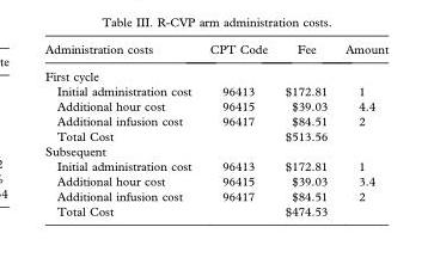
<table><thead><tr><td>Administration costs</td><td>CPT Code</td><td>Fee</td><td>Amount</td></tr></thead><tbody><tr><td colspan="4">First cycle</td></tr><tr><td>Initial administration cost</td><td>96413</td><td>$172.81</td><td>1</td></tr><tr><td>Additional hour cost</td><td>96415</td><td>$39.03</td><td>4.4</td></tr><tr><td>Additional infusion cost</td><td>96417</td><td>$84.51</td><td>2</td></tr><tr><td>Total Cost</td><td></td><td>$513.56</td><td></td></tr><tr><td colspan="4">Subsequent</td></tr><tr><td>Initial administration cost</td><td>96413</td><td>$172.81</td><td>1</td></tr><tr><td>Additional hour cost</td><td>96415</td><td>$39.03</td><td>3.4</td></tr><tr><td>Additional infusion cost</td><td>96417</td><td>$84.51</td><td>2</td></tr><tr><td>Total Cost</td><td></td><td>$474.53</td><td></td></tr></tbody></table>